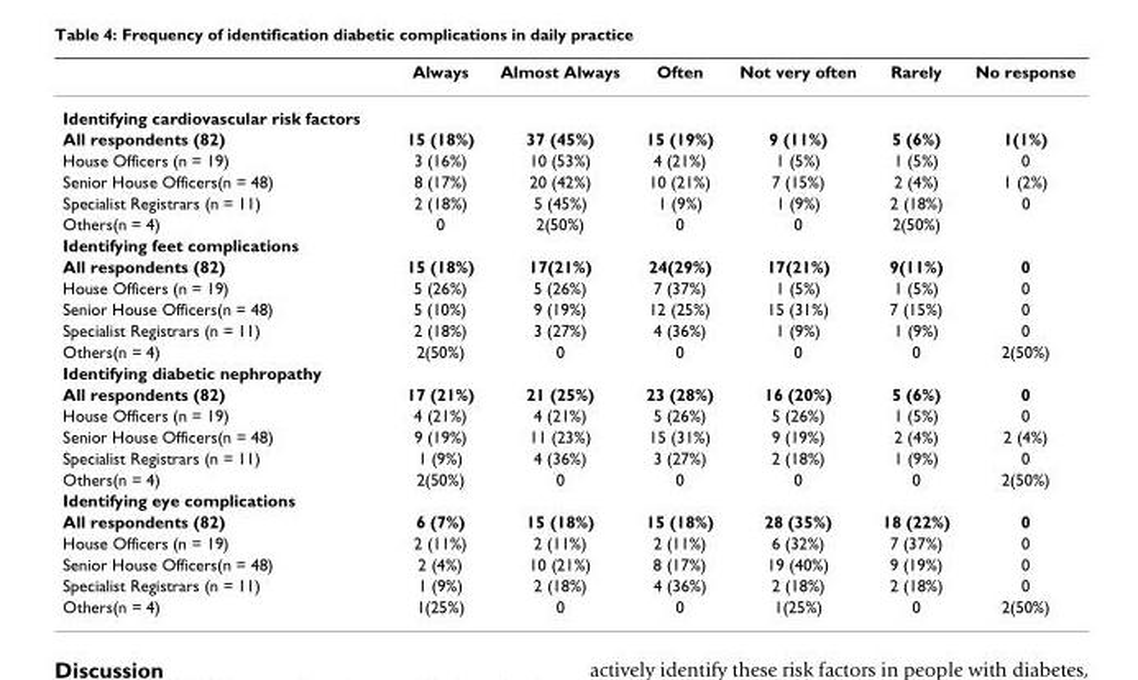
<table><thead><tr><td></td><td>Always</td><td>Almost Always</td><td>Often</td><td>Not very often</td><td>Rarely</td><td>No response</td></tr></thead><tbody><tr><td colspan="7">Identifying cardiovascular risk factors</td></tr><tr><td>All respondents (82)</td><td>15 (18%)</td><td>37 (45%)</td><td>15 (19%)</td><td>9 (11%)</td><td>5 (6%)</td><td>1(1%)</td></tr><tr><td>House Officers (n = 19)</td><td>3 (16%)</td><td>10 (53%)</td><td>4 (21%)</td><td>1 (5%)</td><td>1 (5%)</td><td>0</td></tr><tr><td>Senior House Officers(n = 48)</td><td>8 (17%)</td><td>20 (42%)</td><td>10 (21%)</td><td>7 (15%)</td><td>2 (4%)</td><td>1 (2%)</td></tr><tr><td>Specialist Registrars (n = 11)</td><td>2 (18%)</td><td>5 (45%)</td><td>1 (9%)</td><td>1 (9%)</td><td>2 (18%)</td><td>0</td></tr><tr><td>Others(n = 4)</td><td>0</td><td>2(50%)</td><td>0</td><td>0</td><td>2(50%)</td><td></td></tr><tr><td colspan="7">Identifying feet complications</td></tr><tr><td>All respondents (82)</td><td>15 (18%)</td><td>17(21%)</td><td>24(29%)</td><td>17(21%)</td><td>9(11%)</td><td>0</td></tr><tr><td>House Officers (n = 19)</td><td>5 (26%)</td><td>5 (26%)</td><td>7 (37%)</td><td>1 (5%)</td><td>1 (5%)</td><td>0</td></tr><tr><td>Senior House Officers(n = 48)</td><td>5 (10%)</td><td>9 (19%)</td><td>12 (25%)</td><td>15 (31%)</td><td>7 (15%)</td><td>0</td></tr><tr><td>Specialist Registrars (n = 11)</td><td>2 (18%)</td><td>3 (27%)</td><td>4 (36%)</td><td>1 (9%)</td><td>1 (9%)</td><td>0</td></tr><tr><td>Others(n = 4)</td><td>2(50%)</td><td>0</td><td>0</td><td>0</td><td>0</td><td>2(50%)</td></tr><tr><td colspan="7">Identifying diabetic nephropathy</td></tr><tr><td>All respondents (82)</td><td>17 (21%)</td><td>21 (25%)</td><td>23 (28%)</td><td>16 (20%)</td><td>5 (6%)</td><td>0</td></tr><tr><td>House Officers (n = 19)</td><td>4 (21%)</td><td>4 (21%)</td><td>5 (26%)</td><td>5 (26%)</td><td>1 (5%)</td><td>0</td></tr><tr><td>Senior House Officers(n = 48)</td><td>9 (19%)</td><td>11 (23%)</td><td>15 (31%)</td><td>9 (19%)</td><td>2 (4%)</td><td>2 (4%)</td></tr><tr><td>Specialist Registrars (n = 11)</td><td>1 (9%)</td><td>4 (36%)</td><td>3 (27%)</td><td>2 (18%)</td><td>1 (9%)</td><td>0</td></tr><tr><td>Others(n = 4)</td><td>2(50%)</td><td>0</td><td>0</td><td>0</td><td>0</td><td>2(50%)</td></tr><tr><td colspan="7">Identifying eye complications</td></tr><tr><td>All respondents (82)</td><td>6 (7%)</td><td>15 (18%)</td><td>15 (18%)</td><td>28 (35%)</td><td>18 (22%)</td><td>0</td></tr><tr><td>House Officers (n = 19)</td><td>2 (11%)</td><td>2 (11%)</td><td>2 (11%)</td><td>6 (32%)</td><td>7 (37%)</td><td>0</td></tr><tr><td>Senior House Officers(n = 48)</td><td>2 (4%)</td><td>10 (21%)</td><td>8 (17%)</td><td>19 (40%)</td><td>9 (19%)</td><td>0</td></tr><tr><td>Specialist Registrars (n = 11)</td><td>1 (9%)</td><td>2 (18%)</td><td>4 (36%)</td><td>2 (18%)</td><td>2 (18%)</td><td>0</td></tr><tr><td>Others(n = 4)</td><td>1(25%)</td><td>0</td><td>0</td><td>1(25%)</td><td>0</td><td>2(50%)</td></tr></tbody></table>